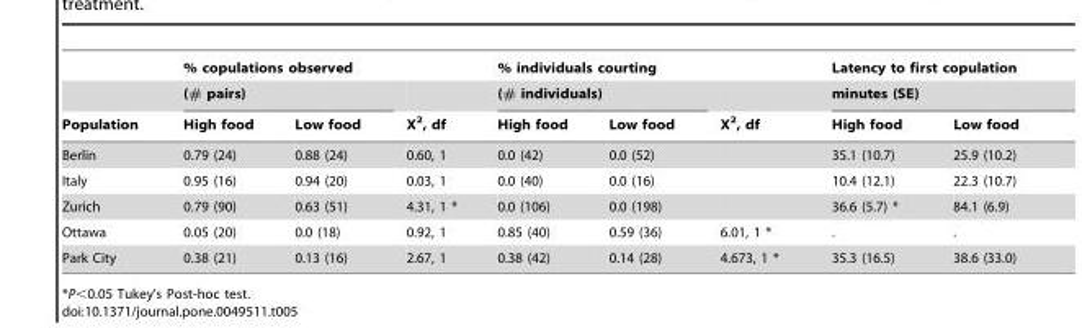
<table><thead><tr><td rowspan="3">Population</td><td rowspan="2" colspan="2">% copulations observed (# pairs)</td><td rowspan="3">X<sup>2</sup>, df</td><td rowspan="2" colspan="2">% individuals courting (# individuals)</td><td rowspan="3">X<sup>2</sup>, df</td><td rowspan="2" colspan="2">Latency to first copulation minutes (SE)</td></tr><tr></tr><tr><td>High food</td><td>Low food</td><td>High food</td><td>Low food</td><td>High food</td><td>Low food</td></tr></thead><tbody><tr><td>Berlin</td><td>0.79 (24)</td><td>0.88 (24)</td><td>0.60, 1</td><td>0.0 (42)</td><td>0.0 (52)</td><td></td><td>35.1 (10.7)</td><td>25.9 (10.2)</td></tr><tr><td>Italy</td><td>0.95 (16)</td><td>0.94 (20)</td><td>0.03, 1</td><td>0.0 (40)</td><td>0.0 (16)</td><td></td><td>10.4 (12.1)</td><td>22.3 (10.7)</td></tr><tr><td>Zurich</td><td>0.79 (90)</td><td>0.63 (51)</td><td>4.31, 1 *</td><td>0.0 (106)</td><td>0.0 (198)</td><td></td><td>36.6 (5.7) *</td><td>84.1 (6.9)</td></tr><tr><td>Ottawa</td><td>0.05 (20)</td><td>0.0 (18)</td><td>0.92, 1</td><td>0.85 (40)</td><td>0.59 (36)</td><td>6.01, 1 *</td><td>.</td><td>.</td></tr><tr><td>Park City</td><td>0.38 (21)</td><td>0.13 (16)</td><td>2.67, 1</td><td>0.38 (42)</td><td>0.14 (28)</td><td>4.673, 1 *</td><td>35.3 (16.5)</td><td>38.6 (33.0)</td></tr></tbody></table>